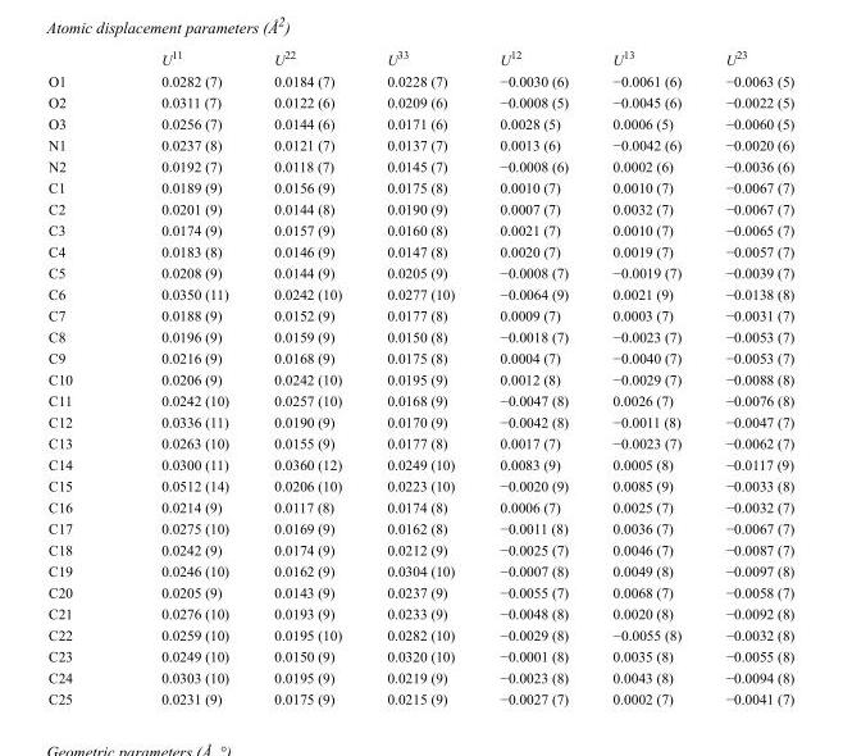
<table><thead><tr><td></td><td>U<sup>11</sup></td><td>U<sup>22</sup></td><td>U<sup>33</sup></td><td>U<sup>12</sup></td><td>U<sup>13</sup></td><td>U<sup>23</sup></td></tr></thead><tbody><tr><td>O1</td><td>0.0282 (7)</td><td>0.0184 (7)</td><td>0.0228 (7)</td><td>−0.0030 (6)</td><td>−0.0061 (6)</td><td>−0.0063 (5)</td></tr><tr><td>O2</td><td>0.0311 (7)</td><td>0.0122 (6)</td><td>0.0209 (6)</td><td>−0.0008 (5)</td><td>−0.0045 (6)</td><td>−0.0022 (5)</td></tr><tr><td>O3</td><td>0.0256 (7)</td><td>0.0144 (6)</td><td>0.0171 (6)</td><td>0.0028 (5)</td><td>0.0006 (5)</td><td>−0.0060 (5)</td></tr><tr><td>N1</td><td>0.0237 (8)</td><td>0.0121 (7)</td><td>0.0137 (7)</td><td>0.0013 (6)</td><td>−0.0042 (6)</td><td>−0.0020 (6)</td></tr><tr><td>N2</td><td>0.0192 (7)</td><td>0.0118 (7)</td><td>0.0145 (7)</td><td>−0.0008 (6)</td><td>0.0002 (6)</td><td>−0.0036 (6)</td></tr><tr><td>C1</td><td>0.0189 (9)</td><td>0.0156 (9)</td><td>0.0175 (8)</td><td>0.0010 (7)</td><td>0.0010 (7)</td><td>−0.0067 (7)</td></tr><tr><td>C2</td><td>0.0201 (9)</td><td>0.0144 (8)</td><td>0.0190 (9)</td><td>0.0007 (7)</td><td>0.0032 (7)</td><td>−0.0067 (7)</td></tr><tr><td>C3</td><td>0.0174 (9)</td><td>0.0157 (9)</td><td>0.0160 (8)</td><td>0.0021 (7)</td><td>0.0010 (7)</td><td>−0.0065 (7)</td></tr><tr><td>C4</td><td>0.0183 (8)</td><td>0.0146 (9)</td><td>0.0147 (8)</td><td>0.0020 (7)</td><td>0.0019 (7)</td><td>−0.0057 (7)</td></tr><tr><td>C5</td><td>0.0208 (9)</td><td>0.0144 (9)</td><td>0.0205 (9)</td><td>−0.0008 (7)</td><td>−0.0019 (7)</td><td>−0.0039 (7)</td></tr><tr><td>C6</td><td>0.0350 (11)</td><td>0.0242 (10)</td><td>0.0277 (10)</td><td>−0.0064 (9)</td><td>0.0021 (9)</td><td>−0.0138 (8)</td></tr><tr><td>C7</td><td>0.0188 (9)</td><td>0.0152 (9)</td><td>0.0177 (8)</td><td>0.0009 (7)</td><td>0.0003 (7)</td><td>−0.0031 (7)</td></tr><tr><td>C8</td><td>0.0196 (9)</td><td>0.0159 (9)</td><td>0.0150 (8)</td><td>−0.0018 (7)</td><td>−0.0023 (7)</td><td>−0.0053 (7)</td></tr><tr><td>C9</td><td>0.0216 (9)</td><td>0.0168 (9)</td><td>0.0175 (8)</td><td>0.0004 (7)</td><td>−0.0040 (7)</td><td>−0.0053 (7)</td></tr><tr><td>C10</td><td>0.0206 (9)</td><td>0.0242 (10)</td><td>0.0195 (9)</td><td>0.0012 (8)</td><td>−0.0029 (7)</td><td>−0.0088 (8)</td></tr><tr><td>C11</td><td>0.0242 (10)</td><td>0.0257 (10)</td><td>0.0168 (9)</td><td>−0.0047 (8)</td><td>0.0026 (7)</td><td>−0.0076 (8)</td></tr><tr><td>C12</td><td>0.0336 (11)</td><td>0.0190 (9)</td><td>0.0170 (9)</td><td>−0.0042 (8)</td><td>−0.0011 (8)</td><td>−0.0047 (7)</td></tr><tr><td>C13</td><td>0.0263 (10)</td><td>0.0155 (9)</td><td>0.0177 (8)</td><td>0.0017 (7)</td><td>−0.0023 (7)</td><td>−0.0062 (7)</td></tr><tr><td>C14</td><td>0.0300 (11)</td><td>0.0360 (12)</td><td>0.0249 (10)</td><td>0.0083 (9)</td><td>0.0005 (8)</td><td>−0.0117 (9)</td></tr><tr><td>C15</td><td>0.0512 (14)</td><td>0.0206 (10)</td><td>0.0223 (10)</td><td>−0.0020 (9)</td><td>0.0085 (9)</td><td>−0.0033 (8)</td></tr><tr><td>C16</td><td>0.0214 (9)</td><td>0.0117 (8)</td><td>0.0174 (8)</td><td>0.0006 (7)</td><td>0.0025 (7)</td><td>−0.0032 (7)</td></tr><tr><td>C17</td><td>0.0275 (10)</td><td>0.0169 (9)</td><td>0.0162 (8)</td><td>−0.0011 (8)</td><td>0.0036 (7)</td><td>−0.0067 (7)</td></tr><tr><td>C18</td><td>0.0242 (9)</td><td>0.0174 (9)</td><td>0.0212 (9)</td><td>−0.0025 (7)</td><td>0.0046 (7)</td><td>−0.0087 (7)</td></tr><tr><td>C19</td><td>0.0246 (10)</td><td>0.0162 (9)</td><td>0.0304 (10)</td><td>−0.0007 (8)</td><td>0.0049 (8)</td><td>−0.0097 (8)</td></tr><tr><td>C20</td><td>0.0205 (9)</td><td>0.0143 (9)</td><td>0.0237 (9)</td><td>−0.0055 (7)</td><td>0.0068 (7)</td><td>−0.0058 (7)</td></tr><tr><td>C21</td><td>0.0276 (10)</td><td>0.0193 (9)</td><td>0.0233 (9)</td><td>−0.0048 (8)</td><td>0.0020 (8)</td><td>−0.0092 (8)</td></tr><tr><td>C22</td><td>0.0259 (10)</td><td>0.0195 (10)</td><td>0.0282 (10)</td><td>−0.0029 (8)</td><td>−0.0055 (8)</td><td>−0.0032 (8)</td></tr><tr><td>C23</td><td>0.0249 (10)</td><td>0.0150 (9)</td><td>0.0320 (10)</td><td>−0.0001 (8)</td><td>0.0035 (8)</td><td>−0.0055 (8)</td></tr><tr><td>C24</td><td>0.0303 (10)</td><td>0.0195 (9)</td><td>0.0219 (9)</td><td>−0.0023 (8)</td><td>0.0043 (8)</td><td>−0.0094 (8)</td></tr><tr><td>C25</td><td>0.0231 (9)</td><td>0.0175 (9)</td><td>0.0215 (9)</td><td>−0.0027 (7)</td><td>0.0002 (7)</td><td>−0.0041 (7)</td></tr></tbody></table>